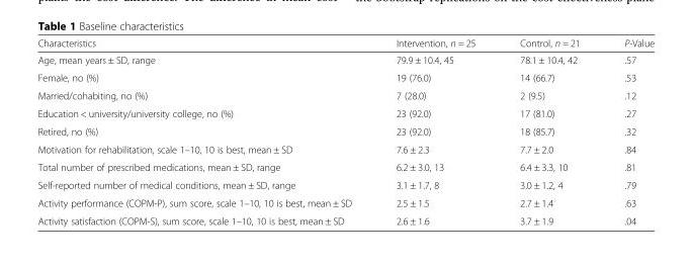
<table><thead><tr><td>Characteristics</td><td>Intervention, n = 25</td><td>Control, n = 21</td><td>P-Value</td></tr></thead><tbody><tr><td>Age, mean years ± SD, range</td><td>79.9 ± 10.4, 45</td><td>78.1 ± 10.4, 42</td><td>.57</td></tr><tr><td>Female, no (%)</td><td>19 (76.0)</td><td>14 (66.7)</td><td>.53</td></tr><tr><td>Married/cohabiting, no (%)</td><td>7 (28.0)</td><td>2 (9.5)</td><td>.12</td></tr><tr><td>Education &lt; university/university college, no (%)</td><td>23 (92.0)</td><td>17 (81.0)</td><td>.27</td></tr><tr><td>Retired, no (%)</td><td>23 (92.0)</td><td>18 (85.7)</td><td>.32</td></tr><tr><td>Motivation for rehabilitation, scale 1–10, 10 is best, mean ± SD</td><td>7.6 ± 2.3</td><td>7.7 ± 2.0</td><td>.84</td></tr><tr><td>Total number of prescribed medications, mean ± SD, range</td><td>6.2 ± 3.0, 13</td><td>6.4 ± 3.3, 10</td><td>.81</td></tr><tr><td>Self-reported number of medical conditions, mean ± SD, range</td><td>3.1 ± 1.7, 8</td><td>3.0 ± 1.2, 4</td><td>.79</td></tr><tr><td>Activity performance (COPM-P), sum score, scale 1–10, 10 is best, mean ± SD</td><td>2.5 ± 1.5</td><td>2.7 ± 1.4</td><td>.63</td></tr><tr><td>Activity satisfaction (COPM-S), sum score, scale 1–10, 10 is best, mean ± SD</td><td>2.6 ± 1.6</td><td>3.7 ± 1.9</td><td>.04</td></tr></tbody></table>